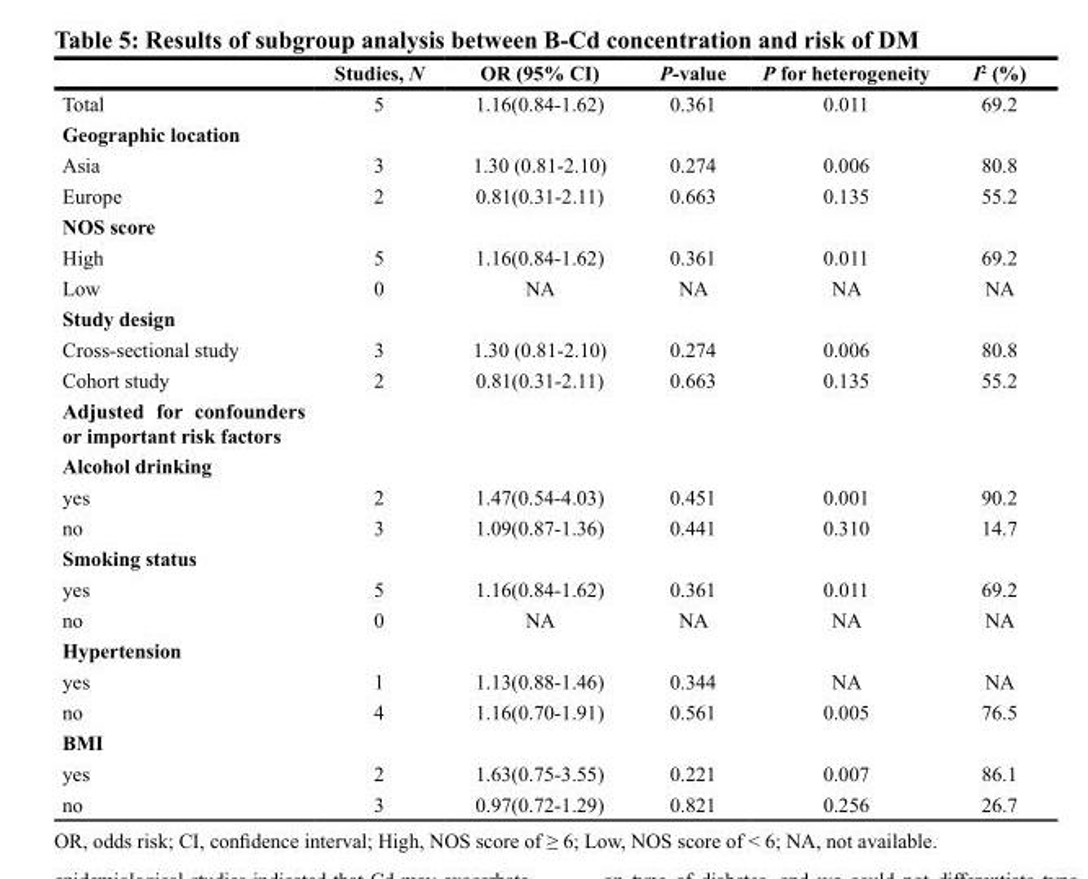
<table><thead><tr><td></td><td>Studies, N</td><td>OR (95% CI)</td><td>P-value</td><td>P for heterogeneity</td><td>I<sup>2</sup> (%)</td></tr></thead><tbody><tr><td>Total</td><td>5</td><td>1.16(0.84-1.62)</td><td>0.361</td><td>0.011</td><td>69.2</td></tr><tr><td colspan="6">Geographic location</td></tr><tr><td>Asia</td><td>3</td><td>1.30 (0.81-2.10)</td><td>0.274</td><td>0.006</td><td>80.8</td></tr><tr><td>Europe</td><td>2</td><td>0.81(0.31-2.11)</td><td>0.663</td><td>0.135</td><td>55.2</td></tr><tr><td colspan="6">NOS score</td></tr><tr><td>High</td><td>5</td><td>1.16(0.84-1.62)</td><td>0.361</td><td>0.011</td><td>69.2</td></tr><tr><td>Low</td><td>0</td><td>NA</td><td>NA</td><td>NA</td><td>NA</td></tr><tr><td colspan="6">Study design</td></tr><tr><td>Cross-sectional study</td><td>3</td><td>1.30 (0.81-2.10)</td><td>0.274</td><td>0.006</td><td>80.8</td></tr><tr><td>Cohort study</td><td>2</td><td>0.81(0.31-2.11)</td><td>0.663</td><td>0.135</td><td>55.2</td></tr><tr><td colspan="6">Adjusted for confounders or important risk factors</td></tr><tr><td colspan="6">Alcohol drinking</td></tr><tr><td>yes</td><td>2</td><td>1.47(0.54-4.03)</td><td>0.451</td><td>0.001</td><td>90.2</td></tr><tr><td>no</td><td>3</td><td>1.09(0.87-1.36)</td><td>0.441</td><td>0.310</td><td>14.7</td></tr><tr><td colspan="6">Smoking status</td></tr><tr><td>yes</td><td>5</td><td>1.16(0.84-1.62)</td><td>0.361</td><td>0.011</td><td>69.2</td></tr><tr><td>no</td><td>0</td><td>NA</td><td>NA</td><td>NA</td><td>NA</td></tr><tr><td colspan="6">Hypertension</td></tr><tr><td>yes</td><td>1</td><td>1.13(0.88-1.46)</td><td>0.344</td><td>NA</td><td>NA</td></tr><tr><td>no</td><td>4</td><td>1.16(0.70-1.91)</td><td>0.561</td><td>0.005</td><td>76.5</td></tr><tr><td colspan="6">BMI</td></tr><tr><td>yes</td><td>2</td><td>1.63(0.75-3.55)</td><td>0.221</td><td>0.007</td><td>86.1</td></tr><tr><td>no</td><td>3</td><td>0.97(0.72-1.29)</td><td>0.821</td><td>0.256</td><td>26.7</td></tr></tbody></table>